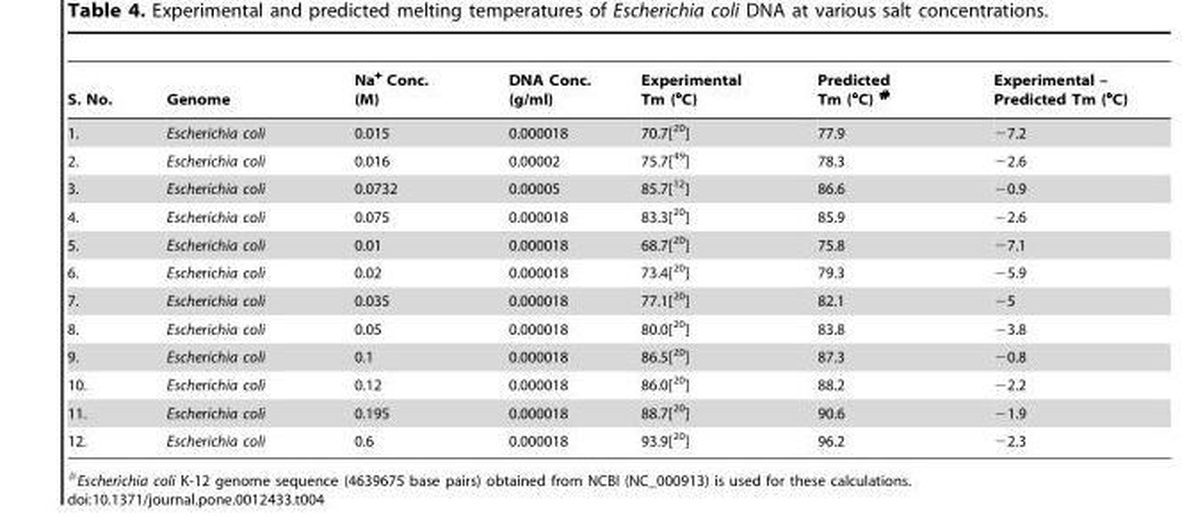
<table><thead><tr><td>S. No.</td><td>Genome</td><td>Na<sup>+</sup> Conc. (M)</td><td>DNA Conc. (g/ml)</td><td>Experimental Tm (°C)</td><td>Predicted Tm (°C) #</td><td>Experimental – Predicted Tm (°C)</td></tr></thead><tbody><tr><td>1.</td><td>Escherichia coli</td><td>0.015</td><td>0.000018</td><td>70.7[<sup>20</sup>]</td><td>77.9</td><td>−7.2</td></tr><tr><td>2.</td><td>Escherichia coli</td><td>0.016</td><td>0.00002</td><td>75.7[<sup>49</sup>]</td><td>78.3</td><td>−2.6</td></tr><tr><td>3.</td><td>Escherichia coli</td><td>0.0732</td><td>0.00005</td><td>85.7[<sup>12</sup>]</td><td>86.6</td><td>−0.9</td></tr><tr><td>4.</td><td>Escherichia coli</td><td>0.075</td><td>0.000018</td><td>83.3[<sup>20</sup>]</td><td>85.9</td><td>−2.6</td></tr><tr><td>5.</td><td>Escherichia coli</td><td>0.01</td><td>0.000018</td><td>68.7[<sup>20</sup>]</td><td>75.8</td><td>−7.1</td></tr><tr><td>6.</td><td>Escherichia coli</td><td>0.02</td><td>0.000018</td><td>73.4[<sup>20</sup>]</td><td>79.3</td><td>−5.9</td></tr><tr><td>7.</td><td>Escherichia coli</td><td>0.035</td><td>0.000018</td><td>77.1[<sup>20</sup>]</td><td>82.1</td><td>−5</td></tr><tr><td>8.</td><td>Escherichia coli</td><td>0.05</td><td>0.000018</td><td>80.0[<sup>20</sup>]</td><td>83.8</td><td>−3.8</td></tr><tr><td>9.</td><td>Escherichia coli</td><td>0.1</td><td>0.000018</td><td>86.5[<sup>20</sup>]</td><td>87.3</td><td>−0.8</td></tr><tr><td>10.</td><td>Escherichia coli</td><td>0.12</td><td>0.000018</td><td>86.0[<sup>20</sup>]</td><td>88.2</td><td>−2.2</td></tr><tr><td>11.</td><td>Escherichia coli</td><td>0.195</td><td>0.000018</td><td>88.7[<sup>20</sup>]</td><td>90.6</td><td>−1.9</td></tr><tr><td>12.</td><td>Escherichia coli</td><td>0.6</td><td>0.000018</td><td>93.9[<sup>20</sup>]</td><td>96.2</td><td>−2.3</td></tr></tbody></table>